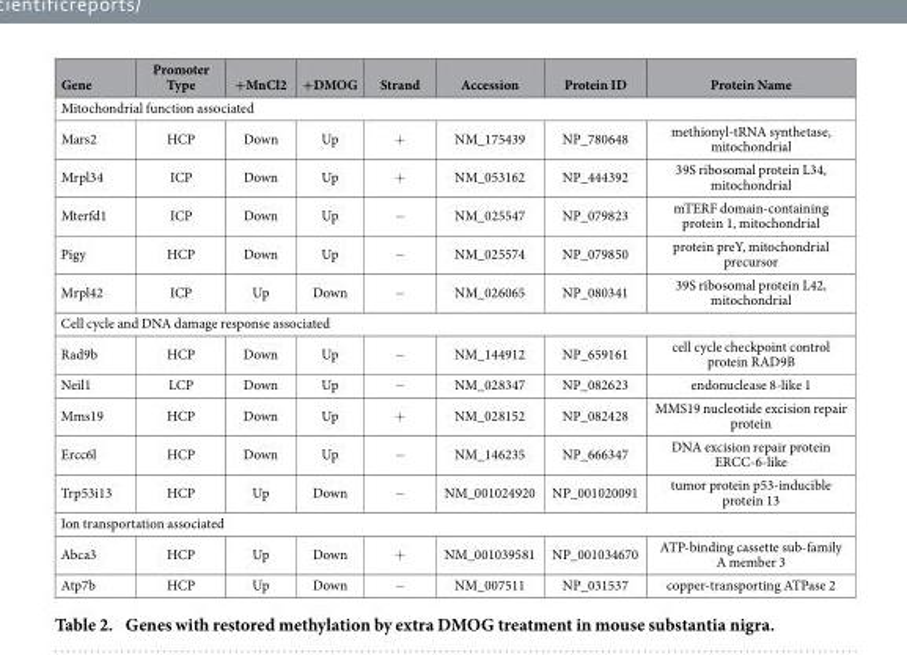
<table><thead><tr><td>Gene</td><td>Promoter Type</td><td>+MnCl2</td><td>+DMOG</td><td>Strand</td><td>Accession</td><td>Protein ID</td><td>Protein Name</td></tr></thead><tbody><tr><td colspan="8">Mitochondrial function associated</td></tr><tr><td>Mars2</td><td>HCP</td><td>Down</td><td>Up</td><td>+</td><td>NM_175439</td><td>NP_780648</td><td>methionyl-tRNA synthetase, mitochondrial</td></tr><tr><td>Mrpl34</td><td>ICP</td><td>Down</td><td>Up</td><td>+</td><td>NM_053162</td><td>NP_444392</td><td>39S ribosomal protein L34, mitochondrial</td></tr><tr><td>Mterfd1</td><td>ICP</td><td>Down</td><td>Up</td><td>−</td><td>NM_025547</td><td>NP_079823</td><td>mTERF domain-containing protein 1, mitochondrial</td></tr><tr><td>Pigy</td><td>HCP</td><td>Down</td><td>Up</td><td>−</td><td>NM_025574</td><td>NP_079850</td><td>protein preY, mitochondrial precursor</td></tr><tr><td>Mrpl42</td><td>ICP</td><td>Up</td><td>Down</td><td>−</td><td>NM_026065</td><td>NP_080341</td><td>39S ribosomal protein L42, mitochondrial</td></tr><tr><td colspan="8">Cell cycle and DNA damage response associated</td></tr><tr><td>Rad9b</td><td>HCP</td><td>Down</td><td>Up</td><td>−</td><td>NM_144912</td><td>NP_659161</td><td>cell cycle checkpoint control protein RAD9B</td></tr><tr><td>Neil1</td><td>LCP</td><td>Down</td><td>Up</td><td>−</td><td>NM_028347</td><td>NP_082623</td><td>endonuclease 8-like 1</td></tr><tr><td>Mms19</td><td>HCP</td><td>Down</td><td>Up</td><td>+</td><td>NM_028152</td><td>NP_082428</td><td>MMS19 nucleotide excision repair protein</td></tr><tr><td>Ercc6l</td><td>HCP</td><td>Down</td><td>Up</td><td>−</td><td>NM_146235</td><td>NP_666347</td><td>DNA excision repair protein ERCC-6-like</td></tr><tr><td>Trp53i13</td><td>HCP</td><td>Up</td><td>Down</td><td>−</td><td>NM_001024920</td><td>NP_001020091</td><td>tumor protein p53-inducible protein 13</td></tr><tr><td colspan="8">Ion transportation associated</td></tr><tr><td>Abca3</td><td>HCP</td><td>Up</td><td>Down</td><td>+</td><td>NM_001039581</td><td>NP_001034670</td><td>ATP-binding cassette sub-family A member 3</td></tr><tr><td>Atp7b</td><td>HCP</td><td>Up</td><td>Down</td><td>−</td><td>NM_007511</td><td>NP_031537</td><td>copper-transporting ATPase 2</td></tr></tbody></table>